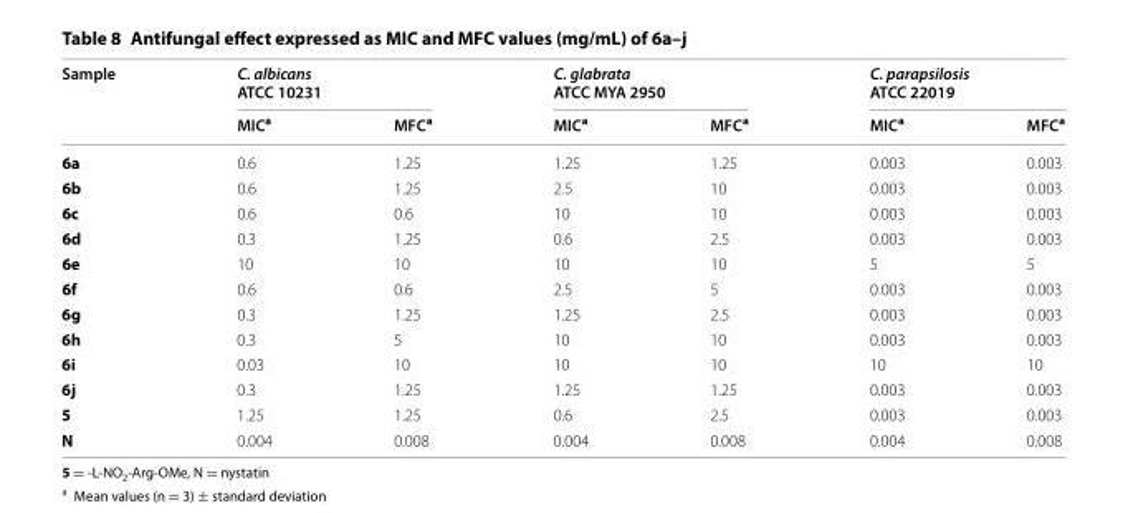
<table><thead><tr><td rowspan="2">Sample</td><td colspan="2">C. albicans ATCC 10231</td><td colspan="2">C. glabrata ATCC MYA 2950</td><td colspan="2">C. parapsilosis ATCC 22019</td></tr><tr><td>MIC<sup>a</sup></td><td>MFC<sup>a</sup></td><td>MIC<sup>a</sup></td><td>MFC<sup>a</sup></td><td>MIC<sup>a</sup></td><td>MFC<sup>a</sup></td></tr></thead><tbody><tr><td>6a</td><td>0.6</td><td>1.25</td><td>1.25</td><td>1.25</td><td>0.003</td><td>0.003</td></tr><tr><td>6b</td><td>0.6</td><td>1.25</td><td>2.5</td><td>10</td><td>0.003</td><td>0.003</td></tr><tr><td>6c</td><td>0.6</td><td>0.6</td><td>10</td><td>10</td><td>0.003</td><td>0.003</td></tr><tr><td>6d</td><td>0.3</td><td>1.25</td><td>0.6</td><td>2.5</td><td>0.003</td><td>0.003</td></tr><tr><td>6e</td><td>10</td><td>10</td><td>10</td><td>10</td><td>5</td><td>5</td></tr><tr><td>6f</td><td>0.6</td><td>0.6</td><td>2.5</td><td>5</td><td>0.003</td><td>0.003</td></tr><tr><td>6g</td><td>0.3</td><td>1.25</td><td>1.25</td><td>2.5</td><td>0.003</td><td>0.003</td></tr><tr><td>6h</td><td>0.3</td><td>5</td><td>10</td><td>10</td><td>0.003</td><td>0.003</td></tr><tr><td>6i</td><td>0.03</td><td>10</td><td>10</td><td>10</td><td>10</td><td>10</td></tr><tr><td>6j</td><td>0.3</td><td>1.25</td><td>1.25</td><td>1.25</td><td>0.003</td><td>0.003</td></tr><tr><td>5</td><td>1.25</td><td>1.25</td><td>0.6</td><td>2.5</td><td>0.003</td><td>0.003</td></tr><tr><td>N</td><td>0.004</td><td>0.008</td><td>0.004</td><td>0.008</td><td>0.004</td><td>0.008</td></tr></tbody></table>